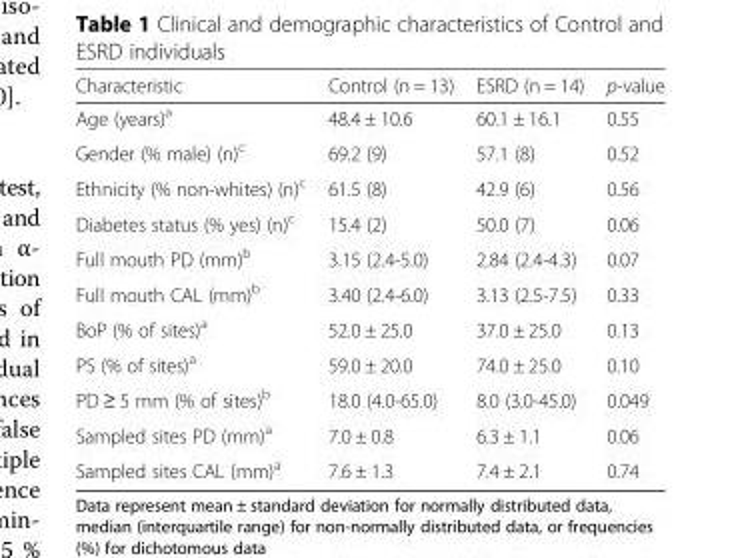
<table><thead><tr><td>Characteristic</td><td>Control (n = 13)</td><td>ESRD (n = 14)</td><td>p-value</td></tr></thead><tbody><tr><td>Age (years)<sup>a</sup></td><td>48.4 ± 10.6</td><td>60.1 ± 16.1</td><td>0.55</td></tr><tr><td>Gender (% male) (n)<sup>c</sup></td><td>69.2 (9)</td><td>57.1 (8)</td><td>0.52</td></tr><tr><td>Ethnicity (% non-whites) (n)<sup>c</sup></td><td>61.5 (8)</td><td>42.9 (6)</td><td>0.56</td></tr><tr><td>Diabetes status (% yes) (n)<sup>c</sup></td><td>15.4 (2)</td><td>50.0 (7)</td><td>0.06</td></tr><tr><td>Full mouth PD (mm)<sup>b</sup></td><td>3.15 (2.4-5.0)</td><td>2.84 (2.4-4.3)</td><td>0.07</td></tr><tr><td>Full mouth CAL (mm)<sup>b</sup></td><td>3.40 (2.4-6.0)</td><td>3.13 (2.5-7.5)</td><td>0.33</td></tr><tr><td>BoP (% of sites)<sup>a</sup></td><td>52.0 ± 25.0</td><td>37.0 ± 25.0</td><td>0.13</td></tr><tr><td>PS (% of sites)<sup>a</sup></td><td>59.0 ± 20.0</td><td>74.0 ± 25.0</td><td>0.10</td></tr><tr><td>PD ≥ 5 mm (% of sites)<sup>b</sup></td><td>18.0 (4.0-65.0)</td><td>8.0 (3.0-45.0)</td><td>0.049</td></tr><tr><td>Sampled sites PD (mm)<sup>a</sup></td><td>7.0 ± 0.8</td><td>6.3 ± 1.1</td><td>0.06</td></tr><tr><td>Sampled sites CAL (mm)<sup>a</sup></td><td>7.6 ± 1.3</td><td>7.4 ± 2.1</td><td>0.74</td></tr></tbody></table>